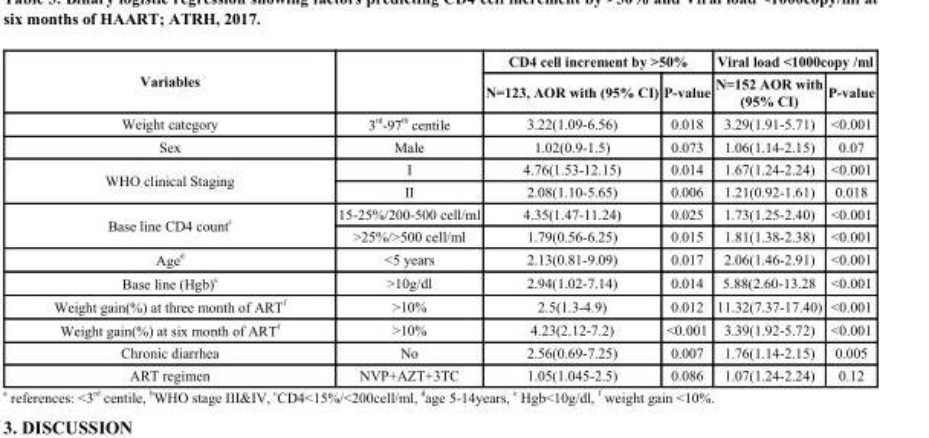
<table><thead><tr><td rowspan="2">Variables</td><td rowspan="2"></td><td colspan="2">CD4 cell increment by &gt;50%</td><td colspan="2">Viral load &lt;1000copy /ml</td></tr><tr><td>N=123, AOR with (95% CI)</td><td>P-value</td><td>N=152 AOR with (95% CI)</td><td>P-value</td></tr></thead><tbody><tr><td>Weight category</td><td>3 <sup>rd</sup>-97 <sup>th</sup> centile</td><td>3.22(1.09-6.56)</td><td>0.018</td><td>3.29(1.91-5.71)</td><td>&lt;0.001</td></tr><tr><td>Sex</td><td>Male</td><td>1.02(0.9-1.5)</td><td>0.073</td><td>1.06(1.14-2.15)</td><td>0.07</td></tr><tr><td rowspan="2">WHO clinical Staging</td><td>I</td><td>4.76(1.53-12.15)</td><td>0.014</td><td>1.67(1.24-2.24)</td><td>&lt;0.001</td></tr><tr><td>II</td><td>2.08(1.10-5.65)</td><td>0.006</td><td>1.21(0.92-1.61)</td><td>0.018</td></tr><tr><td rowspan="2">Base line CD4 count <sup>c</sup></td><td>15-25%/200-500 cell/ml</td><td>4.35(1.47-11.24)</td><td>0.025</td><td>1.73(1.25-2.40)</td><td>&lt;0.001</td></tr><tr><td>&gt;25%/&gt;500 cell/ml</td><td>1.79(0.56-6.25)</td><td>0.015</td><td>1.81(1.38-2.38)</td><td>&lt;0.001</td></tr><tr><td>Age <sup>d</sup></td><td>&lt;5 years</td><td>2.13(0.81-9.09)</td><td>0.017</td><td>2.06(1.46-2.91)</td><td>&lt;0.001</td></tr><tr><td>Base line (Hgb) <sup>e</sup></td><td>&gt;10g/dl</td><td>2.94(1.02-7.14)</td><td>0.014</td><td>5.88(2.60-13.28</td><td>&lt;0.001</td></tr><tr><td>Weight gain(%) at three month of ART <sup>f</sup></td><td>&gt;10%</td><td>2.5(1.3-4.9)</td><td>0.012</td><td>11.32(7.37-17.40)</td><td>&lt;0.001</td></tr><tr><td>Weight gain(%) at six month of ART <sup>f</sup></td><td>&gt;10%</td><td>4.23(2.12-7.2)</td><td>&lt;0.001</td><td>3.39(1.92-5.72)</td><td>&lt;0.001</td></tr><tr><td>Chronic diarrhea</td><td>No</td><td>2.56(0.69-7.25)</td><td>0.007</td><td>1.76(1.14-2.15)</td><td>0.005</td></tr><tr><td>ART regimen</td><td>NVP+AZT+3TC</td><td>1.05(1.045-2.5)</td><td>0.086</td><td>1.07(1.24-2.24)</td><td>0.12</td></tr></tbody></table>